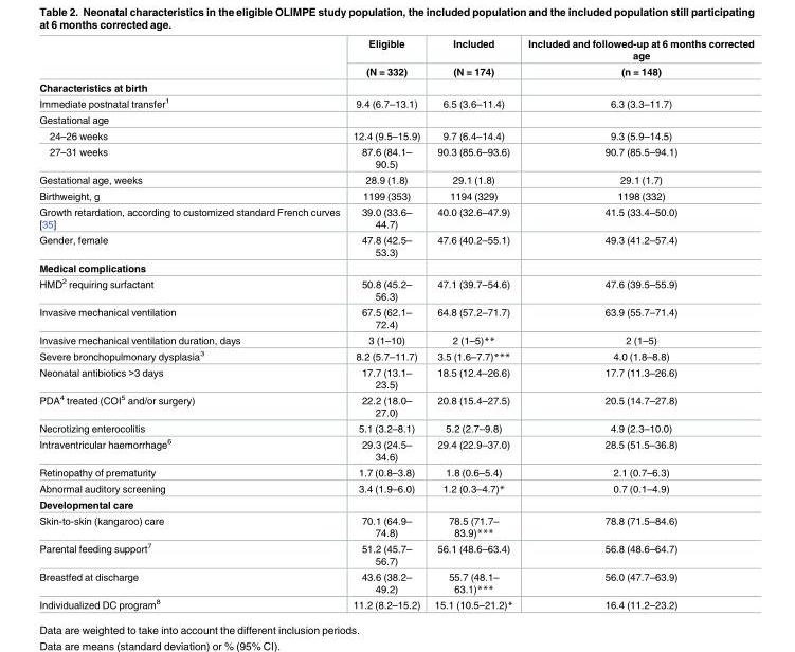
<table><thead><tr><td rowspan="2"></td><td rowspan="2">Eligible (N = 332)</td><td rowspan="2">Included (N = 174)</td><td rowspan="2">Included and followed-up at 6 months corrected age (n = 148)</td></tr><tr></tr></thead><tbody><tr><td colspan="4">Characteristics at birth</td></tr><tr><td>Immediate postnatal transfer<sup>1</sup></td><td>9.4 (6.7–13.1)</td><td>6.5 (3.6–11.4)</td><td>6.3 (3.3–11.7)</td></tr><tr><td colspan="4">Gestational age</td></tr><tr><td>24–26 weeks</td><td>12.4 (9.5–15.9)</td><td>9.7 (6.4–14.4)</td><td>9.3 (5.9–14.5)</td></tr><tr><td>27–31 weeks</td><td>87.6 (84.1– 90.5)</td><td>90.3 (85.6–93.6)</td><td>90.7 (85.5–94.1)</td></tr><tr><td>Gestational age, weeks</td><td>28.9 (1.8)</td><td>29.1 (1.8)</td><td>29.1 (1.7)</td></tr><tr><td>Birthweight, g</td><td>1199 (353)</td><td>1194 (329)</td><td>1198 (332)</td></tr><tr><td>Growth retardation, according to customized standard French curves [35]</td><td>39.0 (33.6– 44.7)</td><td>40.0 (32.6–47.9)</td><td>41.5 (33.4–50.0)</td></tr><tr><td>Gender, female</td><td>47.8 (42.5– 53.3)</td><td>47.6 (40.2–55.1)</td><td>49.3 (41.2–57.4)</td></tr><tr><td colspan="4">Medical complications</td></tr><tr><td>HMD<sup>2</sup> requiring surfactant</td><td>50.8 (45.2– 56.3)</td><td>47.1 (39.7–54.6)</td><td>47.6 (39.5–55.9)</td></tr><tr><td>Invasive mechanical ventilation</td><td>67.5 (62.1– 72.4)</td><td>64.8 (57.2–71.7)</td><td>63.9 (55.7–71.4)</td></tr><tr><td>Invasive mechanical ventilation duration, days</td><td>3 (1–10)</td><td>2 (1–5)**</td><td>2 (1–5)</td></tr><tr><td>Severe bronchopulmonary dysplasia<sup>3</sup></td><td>8.2 (5.7–11.7)</td><td>3.5 (1.6–7.7)***</td><td>4.0 (1.8–8.8)</td></tr><tr><td>Neonatal antibiotics &gt;3 days</td><td>17.7 (13.1– 23.5)</td><td>18.5 (12.4–26.6)</td><td>17.7 (11.3–26.6)</td></tr><tr><td>PDA<sup>4</sup> treated (COI<sup>5</sup> and/or surgery)</td><td>22.2 (18.0– 27.0)</td><td>20.8 (15.4–27.5)</td><td>20.5 (14.7–27.8)</td></tr><tr><td>Necrotizing enterocolitis</td><td>5.1 (3.2–8.1)</td><td>5.2 (2.7–9.8)</td><td>4.9 (2.3–10.0)</td></tr><tr><td>Intraventricular haemorrhage<sup>6</sup></td><td>29.3 (24.5– 34.6)</td><td>29.4 (22.9–37.0)</td><td>28.5 (51.5–36.8)</td></tr><tr><td>Retinopathy of prematurity</td><td>1.7 (0.8–3.8)</td><td>1.8 (0.6–5.4)</td><td>2.1 (0.7–6.3)</td></tr><tr><td>Abnormal auditory screening</td><td>3.4 (1.9–6.0)</td><td>1.2 (0.3–4.7)*</td><td>0.7 (0.1–4.9)</td></tr><tr><td colspan="4">Developmental care</td></tr><tr><td>Skin-to-skin (kangaroo) care</td><td>70.1 (64.9– 74.8)</td><td>78.5 (71.7– 83.9)***</td><td>78.8 (71.5–84.6)</td></tr><tr><td>Parental feeding support<sup>7</sup></td><td>51.2 (45.7– 56.7)</td><td>56.1 (48.6–63.4)</td><td>56.8 (48.6–64.7)</td></tr><tr><td>Breastfed at discharge</td><td>43.6 (38.2– 49.2)</td><td>55.7 (48.1– 63.1)***</td><td>56.0 (47.7–63.9)</td></tr><tr><td>Individualized DC program<sup>8</sup></td><td>11.2 (8.2–15.2)</td><td>15.1 (10.5–21.2)*</td><td>16.4 (11.2–23.2)</td></tr></tbody></table>